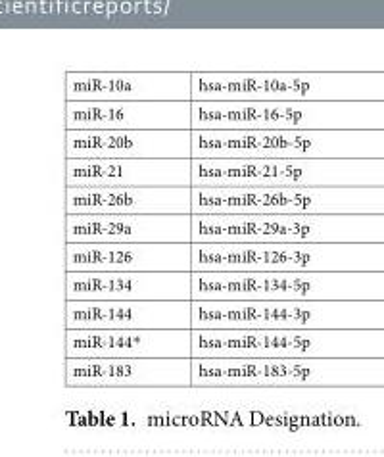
<table><tbody><tr><td>miR-10a</td><td>hsa-miR-10a-5p</td></tr><tr><td>miR-16</td><td>hsa-miR-16-5p</td></tr><tr><td>miR-20b</td><td>hsa-miR-20b-5p</td></tr><tr><td>miR-21</td><td>hsa-miR-21-5p</td></tr><tr><td>miR-26b</td><td>hsa-miR-26b-5p</td></tr><tr><td>miR-29a</td><td>hsa-miR-29a-3p</td></tr><tr><td>miR-126</td><td>hsa-miR-126-3p</td></tr><tr><td>miR-134</td><td>hsa-miR-134-5p</td></tr><tr><td>miR-144</td><td>hsa-miR-144-3p</td></tr><tr><td>miR-144*</td><td>hsa-miR-144-5p</td></tr><tr><td>miR-183</td><td>hsa-miR-183-5p</td></tr></tbody></table>